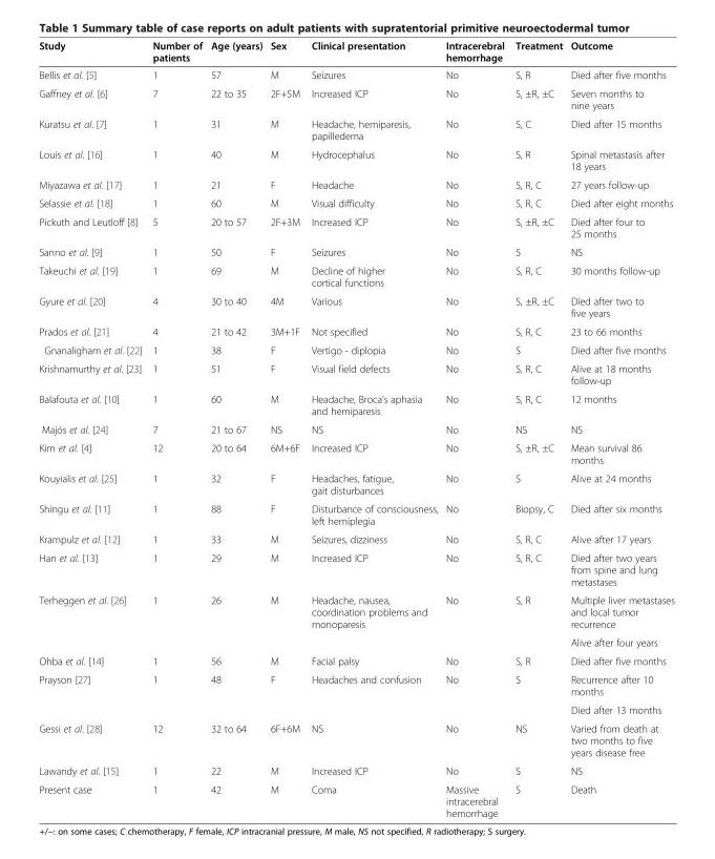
<table><thead><tr><td>Study</td><td>Number of patients</td><td>Age (years)</td><td>Sex</td><td>Clinical presentation</td><td>Intracerebral hemorrhage</td><td>Treatment</td><td>Outcome</td></tr></thead><tbody><tr><td>Bellis et al. [5]</td><td>1</td><td>57</td><td>M</td><td>Seizures</td><td>No</td><td>S, R</td><td>Died after five months</td></tr><tr><td>Gaffney et al. [6]</td><td>7</td><td>22 to 35</td><td>2F+5M</td><td>Increased ICP</td><td>No</td><td>S, ±R, ±C</td><td>Seven months to nine years</td></tr><tr><td>Kuratsu et al. [7]</td><td>1</td><td>31</td><td>M</td><td>Headache, hemiparesis, papilledema</td><td>No</td><td>S, C</td><td>Died after 15 months</td></tr><tr><td>Louis et al. [16]</td><td>1</td><td>40</td><td>M</td><td>Hydrocephalus</td><td>No</td><td>S, R</td><td>Spinal metastasis after 18 years</td></tr><tr><td>Miyazawa et al. [17]</td><td>1</td><td>21</td><td>F</td><td>Headache</td><td>No</td><td>S, R, C</td><td>27 years follow-up</td></tr><tr><td>Selassie et al. [18]</td><td>1</td><td>60</td><td>M</td><td>Visual difficulty</td><td>No</td><td>S, R, C</td><td>Died after eight months</td></tr><tr><td>Pickuth and Leutloff [8]</td><td>5</td><td>20 to 57</td><td>2F+3M</td><td>Increased ICP</td><td>No</td><td>S, ±R, ±C</td><td>Died after four to 25 months</td></tr><tr><td>Sanno et al. [9]</td><td>1</td><td>50</td><td>F</td><td>Seizures</td><td>No</td><td>S</td><td>NS</td></tr><tr><td>Takeuchi et al. [19]</td><td>1</td><td>69</td><td>M</td><td>Decline of higher cortical functions</td><td>No</td><td>S, R, C</td><td>30 months follow-up</td></tr><tr><td>Gyure et al. [20]</td><td>4</td><td>30 to 40</td><td>4M</td><td>Various</td><td>No</td><td>S, ±R, ±C</td><td>Died after two to five years</td></tr><tr><td>Prados et al. [21]</td><td>4</td><td>21 to 42</td><td>3M+1F</td><td>Not specified</td><td>No</td><td>S, R, C</td><td>23 to 66 months</td></tr><tr><td>Gnanaligham et al. [22]</td><td>1</td><td>38</td><td>F</td><td>Vertigo - diplopia</td><td>No</td><td>S</td><td>Died after five months</td></tr><tr><td>Krishnamurthy et al. [23]</td><td>1</td><td>51</td><td>F</td><td>Visual field defects</td><td>No</td><td>S, R, C</td><td>Alive at 18 months follow-up</td></tr><tr><td>Balafouta et al. [10]</td><td>1</td><td>60</td><td>M</td><td>Headache, Broca’s aphasia and hemiparesis</td><td>No</td><td>S, R, C</td><td>12 months</td></tr><tr><td>Majós et al. [24]</td><td>7</td><td>21 to 67</td><td>NS</td><td>NS</td><td>No</td><td>NS</td><td>NS</td></tr><tr><td>Kim et al. [4]</td><td>12</td><td>20 to 64</td><td>6M+6F</td><td>Increased ICP</td><td>No</td><td>S, ±R, ±C</td><td>Mean survival 86 months</td></tr><tr><td>Kouyialis et al. [25]</td><td>1</td><td>32</td><td>F</td><td>Headaches, fatigue, gait disturbances</td><td>No</td><td>S</td><td>Alive at 24 months</td></tr><tr><td>Shingu et al. [11]</td><td>1</td><td>88</td><td>F</td><td>Disturbance of consciousness, left hemiplegia</td><td>No</td><td>Biopsy, C</td><td>Died after six months</td></tr><tr><td>Krampulz et al. [12]</td><td>1</td><td>33</td><td>M</td><td>Seizures, dizziness</td><td>No</td><td>S, R, C</td><td>Alive after 17 years</td></tr><tr><td>Han et al. [13]</td><td>1</td><td>29</td><td>M</td><td>Increased ICP</td><td>No</td><td>S, R, C</td><td>Died after two years from spine and lung metastases</td></tr><tr><td rowspan="2">Terheggen et al. [26]</td><td rowspan="2">1</td><td rowspan="2">26</td><td rowspan="2">M</td><td rowspan="2">Headache, nausea, coordination problems and monoparesis</td><td rowspan="2">No</td><td rowspan="2">S, R</td><td>Multiple liver metastases and local tumor recurrence</td></tr><tr><td>Alive after four years</td></tr><tr><td>Ohba et al. [14]</td><td>1</td><td>56</td><td>M</td><td>Facial palsy</td><td>No</td><td>S, R</td><td>Died after five months</td></tr><tr><td rowspan="2">Prayson [27]</td><td rowspan="2">1</td><td rowspan="2">48</td><td rowspan="2">F</td><td rowspan="2">Headaches and confusion</td><td rowspan="2">No</td><td rowspan="2">S</td><td>Recurrence after 10 months</td></tr><tr><td>Died after 13 months</td></tr><tr><td>Gessi et al. [28]</td><td>12</td><td>32 to 64</td><td>6F+6M</td><td>NS</td><td>No</td><td>NS</td><td>Varied from death at two months to five years disease free</td></tr><tr><td>Lawandy et al. [15]</td><td>1</td><td>22</td><td>M</td><td>Increased ICP</td><td>No</td><td>S</td><td>NS</td></tr><tr><td>Present case</td><td>1</td><td>42</td><td>M</td><td>Coma</td><td>Massive intracerebral hemorrhage</td><td>S</td><td>Death</td></tr></tbody></table>